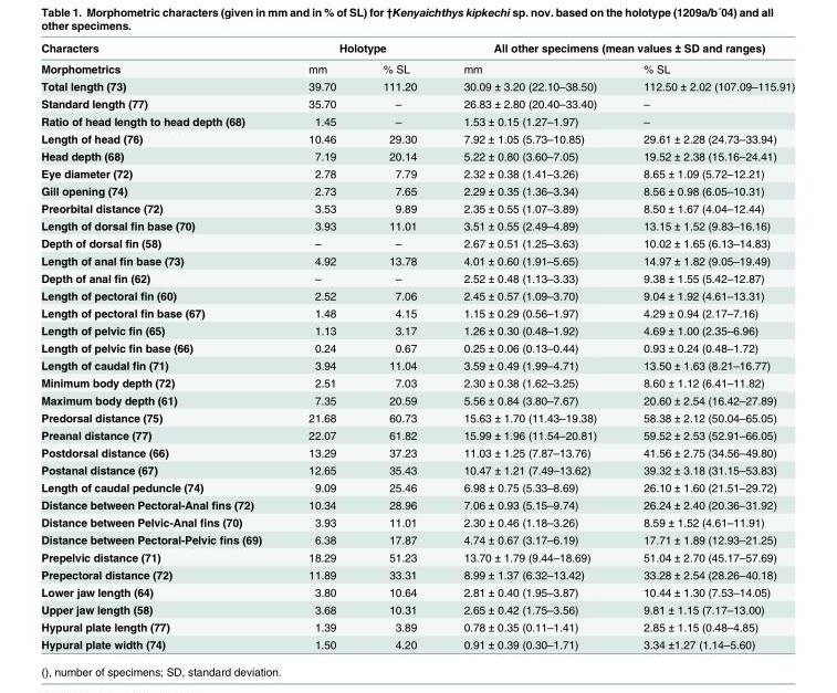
<table><thead><tr><td rowspan="2">Characters Morphometrics</td><td colspan="2">Holotype</td><td colspan="2">All other specimens (mean values ± SD and ranges)</td></tr><tr><td>mm</td><td>% SL</td><td>mm</td><td>% SL</td></tr></thead><tbody><tr><td>Total length (73)</td><td>39.70</td><td>111.20</td><td>30.09 ± 3.20 (22.10–38.50)</td><td>112.50 ± 2.02 (107.09–115.91)</td></tr><tr><td>Standard length (77)</td><td>35.70</td><td>–</td><td>26.83 ± 2.80 (20.40–33.40)</td><td>–</td></tr><tr><td>Ratio of head length to head depth (68)</td><td>1.45</td><td>–</td><td>1.53 ± 0.15 (1.27–1.97)</td><td>–</td></tr><tr><td>Length of head (76)</td><td>10.46</td><td>29.30</td><td>7.92 ± 1.05 (5.73–10.85)</td><td>29.61 ± 2.28 (24.73–33.94)</td></tr><tr><td>Head depth (68)</td><td>7.19</td><td>20.14</td><td>5.22 ± 0.80 (3.60–7.05)</td><td>19.52 ± 2.38 (15.16–24.41)</td></tr><tr><td>Eye diameter (72)</td><td>2.78</td><td>7.79</td><td>2.32 ± 0.38 (1.41–3.26)</td><td>8.65 ± 1.09 (5.72–12.21)</td></tr><tr><td>Gill opening (74)</td><td>2.73</td><td>7.65</td><td>2.29 ± 0.35 (1.36–3.34)</td><td>8.56 ± 0.98 (6.05–10.31)</td></tr><tr><td>Preorbital distance (72)</td><td>3.53</td><td>9.89</td><td>2.35 ± 0.55 (1.07–3.89)</td><td>8.50 ± 1.67 (4.04–12.44)</td></tr><tr><td>Length of dorsal fin base (70)</td><td>3.93</td><td>11.01</td><td>3.51 ± 0.55 (2.49–4.89)</td><td>13.15 ± 1.52 (9.83–16.16)</td></tr><tr><td>Depth of dorsal fin (58)</td><td>–</td><td>–</td><td>2.67 ± 0.51 (1.25–3.63)</td><td>10.02 ± 1.65 (6.13–14.83)</td></tr><tr><td>Length of anal fin base (73)</td><td>4.92</td><td>13.78</td><td>4.01 ± 0.60 (1.91–5.65)</td><td>14.97 ± 1.82 (9.05–19.49)</td></tr><tr><td>Depth of anal fin (62)</td><td>–</td><td>–</td><td>2.52 ± 0.48 (1.13–3.33)</td><td>9.38 ± 1.55 (5.42–12.87)</td></tr><tr><td>Length of pectoral fin (60)</td><td>2.52</td><td>7.06</td><td>2.45 ± 0.57 (1.09–3.70)</td><td>9.04 ± 1.92 (4.61–13.31)</td></tr><tr><td>Length of pectoral fin base (67)</td><td>1.48</td><td>4.15</td><td>1.15 ± 0.29 (0.56–1.97)</td><td>4.29 ± 0.94 (2.17–7.16)</td></tr><tr><td>Length of pelvic fin (65)</td><td>1.13</td><td>3.17</td><td>1.26 ± 0.30 (0.48–1.92)</td><td>4.69 ± 1.00 (2.35–6.96)</td></tr><tr><td>Length of pelvic fin base (66)</td><td>0.24</td><td>0.67</td><td>0.25 ± 0.06 (0.13–0.44)</td><td>0.93 ± 0.24 (0.48–1.72)</td></tr><tr><td>Length of caudal fin (71)</td><td>3.94</td><td>11.04</td><td>3.59 ± 0.49 (1.99–4.71)</td><td>13.50 ± 1.63 (8.21–16.77)</td></tr><tr><td>Minimum body depth (72)</td><td>2.51</td><td>7.03</td><td>2.30 ± 0.38 (1.62–3.25)</td><td>8.60 ± 1.12 (6.41–11.82)</td></tr><tr><td>Maximum body depth (61)</td><td>7.35</td><td>20.59</td><td>5.56 ± 0.84 (3.80–7.67)</td><td>20.60 ± 2.54 (16.42–27.89)</td></tr><tr><td>Predorsal distance (75)</td><td>21.68</td><td>60.73</td><td>15.63 ± 1.70 (11.43–19.38)</td><td>58.38 ± 2.12 (50.04–65.05)</td></tr><tr><td>Preanal distance (77)</td><td>22.07</td><td>61.82</td><td>15.99 ± 1.96 (11.54–20.81)</td><td>59.52 ± 2.53 (52.91–66.05)</td></tr><tr><td>Postdorsal distance (66)</td><td>13.29</td><td>37.23</td><td>11.03 ± 1.25 (7.87–13.76)</td><td>41.56 ± 2.75 (34.56–49.80)</td></tr><tr><td>Postanal distance (67)</td><td>12.65</td><td>35.43</td><td>10.47 ± 1.21 (7.49–13.62)</td><td>39.32 ± 3.18 (31.15–53.83)</td></tr><tr><td>Length of caudal peduncle (74)</td><td>9.09</td><td>25.46</td><td>6.98 ± 0.75 (5.33–8.69)</td><td>26.10 ± 1.60 (21.51–29.72)</td></tr><tr><td>Distance between Pectoral-Anal fins (72)</td><td>10.34</td><td>28.96</td><td>7.06 ± 0.93 (5.15–9.74)</td><td>26.24 ± 2.40 (20.36–31.92)</td></tr><tr><td>Distance between Pelvic-Anal fins (70)</td><td>3.93</td><td>11.01</td><td>2.30 ± 0.46 (1.18–3.26)</td><td>8.59 ± 1.52 (4.61–11.91)</td></tr><tr><td>Distance between Pectoral-Pelvic fins (69)</td><td>6.38</td><td>17.87</td><td>4.74 ± 0.67 (3.17–6.19)</td><td>17.71 ± 1.89 (12.93–21.25)</td></tr><tr><td>Prepelvic distance (71)</td><td>18.29</td><td>51.23</td><td>13.70 ± 1.79 (9.44–18.69)</td><td>51.04 ± 2.70 (45.17–57.69)</td></tr><tr><td>Prepectoral distance (72)</td><td>11.89</td><td>33.31</td><td>8.99 ± 1.37 (6.32–13.42)</td><td>33.28 ± 2.54 (28.26–40.18)</td></tr><tr><td>Lower jaw length (64)</td><td>3.80</td><td>10.64</td><td>2.81 ± 0.40 (1.95–3.87)</td><td>10.44 ± 1.30 (7.53–14.05)</td></tr><tr><td>Upper jaw length (58)</td><td>3.68</td><td>10.31</td><td>2.65 ± 0.42 (1.75–3.56)</td><td>9.81 ± 1.15 (7.17–13.00)</td></tr><tr><td>Hypural plate length (77)</td><td>1.39</td><td>3.89</td><td>0.78 ± 0.35 (0.11–1.41)</td><td>2.85 ± 1.15 (0.48–4.85)</td></tr><tr><td>Hypural plate width (74)</td><td>1.50</td><td>4.20</td><td>0.91 ± 0.39 (0.30–1.71)</td><td>3.34 ±1.27 (1.14–5.60)</td></tr></tbody></table>